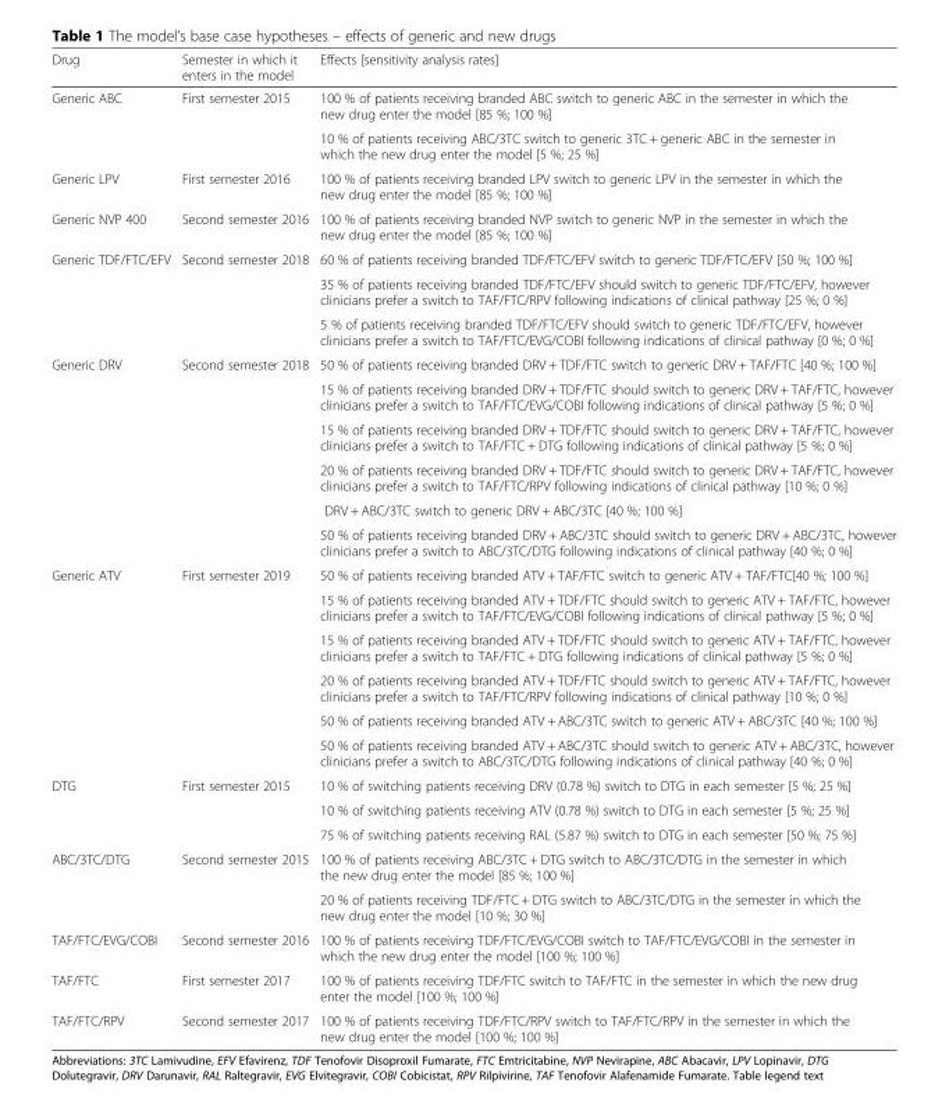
<table><thead><tr><td>Drug</td><td>Semester in which it enters in the model</td><td>Effects [sensitivity analysis rates]</td></tr></thead><tbody><tr><td rowspan="2">Generic ABC</td><td rowspan="2">First semester 2015</td><td>100 % of patients receiving branded ABC switch to generic ABC in the semester in which the new drug enter the model [85 %; 100 %]</td></tr><tr><td>10 % of patients receiving ABC/3TC switch to generic 3TC + generic ABC in the semester in which the new drug enter the model [5 %; 25 %]</td></tr><tr><td>Generic LPV</td><td>First semester 2016</td><td>100 % of patients receiving branded LPV switch to generic LPV in the semester in which the new drug enter the model [85 %; 100 %]</td></tr><tr><td>Generic NVP 400</td><td>Second semester 2016</td><td>100 % of patients receiving branded NVP switch to generic NVP in the semester in which the new drug enter the model [85 %; 100 %]</td></tr><tr><td rowspan="3">Generic TDF/FTC/EFV</td><td rowspan="3">Second semester 2018</td><td>60 % of patients receiving branded TDF/FTC/EFV switch to generic TDF/FTC/EFV [50 %; 100 %]</td></tr><tr><td>35 % of patients receiving branded TDF/FTC/EFV should switch to generic TDF/FTC/EFV, however clinicians prefer a switch to TAF/FTC/RPV following indications of clinical pathway [25 %; 0 %]</td></tr><tr><td>5 % of patients receiving branded TDF/FTC/EFV should switch to generic TDF/FTC/EFV, however clinicians prefer a switch to TAF/FTC/EVG/COBI following indications of clinical pathway [0 %; 0 %]</td></tr><tr><td rowspan="6">Generic DRV</td><td rowspan="6">Second semester 2018</td><td>50 % of patients receiving branded DRV + TDF/FTC switch to generic DRV + TAF/FTC [40 %; 100 %]</td></tr><tr><td>15 % of patients receiving branded DRV + TDF/FTC should switch to generic DRV + TAF/FTC, however clinicians prefer a switch to TAF/FTC/EVG/COBI following indications of clinical pathway [5 %; 0 %]</td></tr><tr><td>15 % of patients receiving branded DRV + TDF/FTC should switch to generic DRV + TAF/FTC, however clinicians prefer a switch to TAF/FTC + DTG following indications of clinical pathway [5 %; 0 %]</td></tr><tr><td>20 % of patients receiving branded DRV + TDF/FTC should switch to generic DRV + TAF/FTC, however clinicians prefer a switch to TAF/FTC/RPV following indications of clinical pathway [10 %; 0 %]</td></tr><tr><td>DRV + ABC/3TC switch to generic DRV + ABC/3TC [40 %; 100 %]</td></tr><tr><td>50 % of patients receiving branded DRV + ABC/3TC should switch to generic DRV + ABC/3TC, however clinicians prefer a switch to ABC/3TC/DTG following indications of clinical pathway [40 %; 0 %]</td></tr><tr><td rowspan="6">Generic ATV</td><td rowspan="6">First semester 2019</td><td>50 % of patients receiving branded ATV + TAF/FTC switch to generic ATV + TAF/FTC[40 %; 100 %]</td></tr><tr><td>15 % of patients receiving branded ATV + TDF/FTC should switch to generic ATV + TAF/FTC, however clinicians prefer a switch to TAF/FTC/EVG/COBI following indications of clinical pathway [5 %; 0 %]</td></tr><tr><td>15 % of patients receiving branded ATV + TDF/FTC should switch to generic ATV + TAF/FTC, however clinicians prefer a switch to TAF/FTC + DTG following indications of clinical pathway [5 %; 0 %]</td></tr><tr><td>20 % of patients receiving branded ATV + TDF/FTC should switch to generic ATV + TAF/FTC, however clinicians prefer a switch to TAF/FTC/RPV following indications of clinical pathway [10 %; 0 %]</td></tr><tr><td>50 % of patients receiving branded ATV + ABC/3TC switch to generic ATV + ABC/3TC [40 %; 100 %]</td></tr><tr><td>50 % of patients receiving branded ATV + ABC/3TC should switch to generic ATV + ABC/3TC, however clinicians prefer a switch to ABC/3TC/DTG following indications of clinical pathway [40 %; 0 %]</td></tr><tr><td rowspan="3">DTG</td><td rowspan="3">First semester 2015</td><td>10 % of switching patients receiving DRV (0.78 %) switch to DTG in each semester [5 %; 25 %]</td></tr><tr><td>10 % of switching patients receiving ATV (0.78 %) switch to DTG in each semester [5 %; 25 %]</td></tr><tr><td>75 % of switching patients receiving RAL (5.87 %) switch to DTG in each semester [50 %; 75 %]</td></tr><tr><td rowspan="2">ABC/3TC/DTG</td><td rowspan="2">Second semester 2015</td><td>100 % of patients receiving ABC/3TC + DTG switch to ABC/3TC/DTG in the semester in which the new drug enter the model [85 %; 100 %]</td></tr><tr><td>20 % of patients receiving TDF/FTC + DTG switch to ABC/3TC/DTG in the semester in which the new drug enter the model [10 %; 30 %]</td></tr><tr><td>TAF/FTC/EVG/COBI</td><td>Second semester 2016</td><td>100 % of patients receiving TDF/FTC/EVG/COBI switch to TAF/FTC/EVG/COBI in the semester in which the new drug enter the model [100 %; 100 %]</td></tr><tr><td>TAF/FTC</td><td>First semester 2017</td><td>100 % of patients receiving TDF/FTC switch to TAF/FTC in the semester in which the new drug enter the model [100 %; 100 %]</td></tr><tr><td>TAF/FTC/RPV</td><td>Second semester 2017</td><td>100 % of patients receiving TDF/FTC/RPV switch to TAF/FTC/RPV in the semester in which the new drug enter the model [100 %; 100 %]</td></tr></tbody></table>